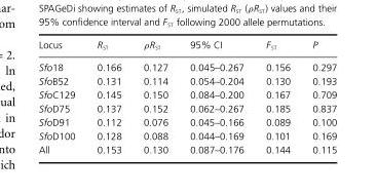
<table><thead><tr><td>Locus</td><td>R<sub>ST</sub></td><td>ρR<sub>ST</sub></td><td>95% CI</td><td>F<sub>ST</sub></td><td>P</td></tr></thead><tbody><tr><td>Sfo18</td><td>0.166</td><td>0.127</td><td>0.045–0.267</td><td>0.156</td><td>0.297</td></tr><tr><td>SfoB52</td><td>0.131</td><td>0.114</td><td>0.054–0.204</td><td>0.130</td><td>0.193</td></tr><tr><td>SfoC129</td><td>0.145</td><td>0.150</td><td>0.084–0.200</td><td>0.167</td><td>0.709</td></tr><tr><td>SfoD75</td><td>0.137</td><td>0.152</td><td>0.062–0.267</td><td>0.185</td><td>0.837</td></tr><tr><td>SfoD91</td><td>0.112</td><td>0.076</td><td>0.045–0.166</td><td>0.089</td><td>0.100</td></tr><tr><td>SfoD100</td><td>0.128</td><td>0.088</td><td>0.044–0.169</td><td>0.101</td><td>0.169</td></tr><tr><td>All</td><td>0.153</td><td>0.130</td><td>0.087–0.176</td><td>0.144</td><td>0.115</td></tr></tbody></table>